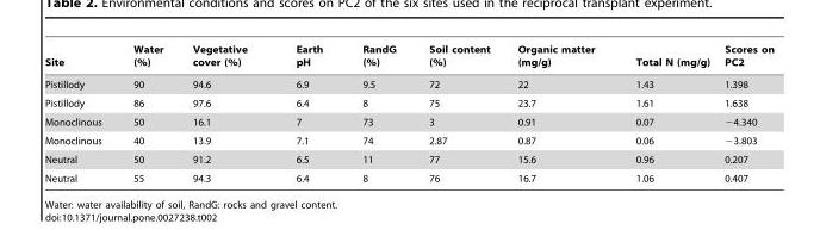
<table><thead><tr><td>Site</td><td>Water (%)</td><td>Vegetative cover (%)</td><td>Earth pH</td><td>RandG (%)</td><td>Soil content (%)</td><td>Organic matter (mg/g)</td><td>Total N (mg/g)</td><td>Scores on PC2</td></tr></thead><tbody><tr><td>Pistillody</td><td>90</td><td>94.6</td><td>6.9</td><td>9.5</td><td>72</td><td>22</td><td>1.43</td><td>1.398</td></tr><tr><td>Pistillody</td><td>86</td><td>97.6</td><td>6.4</td><td>8</td><td>75</td><td>23.7</td><td>1.61</td><td>1.638</td></tr><tr><td>Monoclinous</td><td>50</td><td>16.1</td><td>7</td><td>73</td><td>3</td><td>0.91</td><td>0.07</td><td>−4.340</td></tr><tr><td>Monoclinous</td><td>40</td><td>13.9</td><td>7.1</td><td>74</td><td>2.87</td><td>0.87</td><td>0.06</td><td>−3.803</td></tr><tr><td>Neutral</td><td>50</td><td>91.2</td><td>6.5</td><td>11</td><td>77</td><td>15.6</td><td>0.96</td><td>0.207</td></tr><tr><td>Neutral</td><td>55</td><td>94.3</td><td>6.4</td><td>8</td><td>76</td><td>16.7</td><td>1.06</td><td>0.407</td></tr></tbody></table>